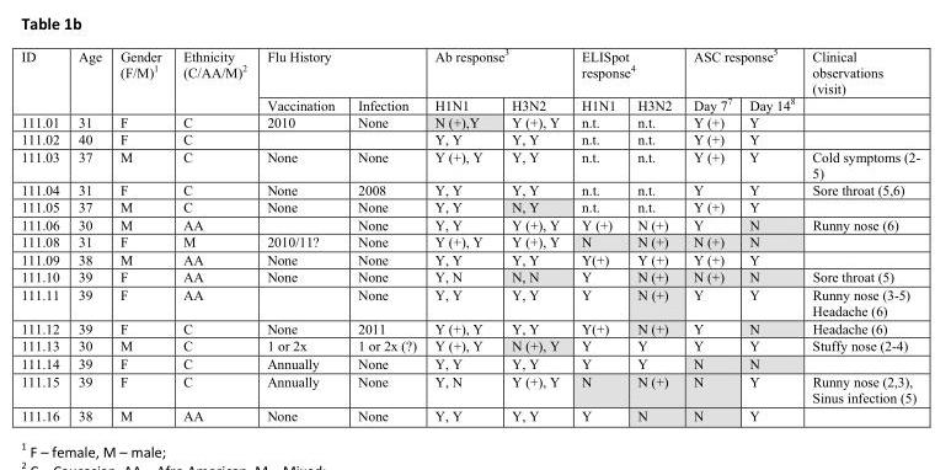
<table><thead><tr><td rowspan="2">ID</td><td rowspan="2">Age</td><td rowspan="2">Gender (F/M)<sup>1</sup></td><td rowspan="2">Ethnicity (C/AA/M)<sup>2</sup></td><td colspan="2">Flu History</td><td colspan="2">Ab response<sup>3</sup></td><td colspan="2">ELISpot response<sup>4</sup></td><td colspan="2">ASC response<sup>5</sup></td><td rowspan="2">Clinical observations (visit)</td></tr><tr><td>Vaccination</td><td>Infection</td><td>H1N1</td><td>H3N2</td><td>H1N1</td><td>H3N2</td><td>Day 7<sup>7</sup></td><td>Day 14<sup>8</sup></td></tr></thead><tbody><tr><td>111.01</td><td>31</td><td>F</td><td>C</td><td>2010</td><td>None</td><td>N (+),Y</td><td>Y (+), Y</td><td>n.t.</td><td>n.t.</td><td>Y (+)</td><td>Y</td><td></td></tr><tr><td>111.02</td><td>40</td><td>F</td><td>C</td><td></td><td></td><td>Y, Y</td><td>Y, Y</td><td>n.t.</td><td>n.t.</td><td>Y (+)</td><td>Y</td><td></td></tr><tr><td>111.03</td><td>37</td><td>M</td><td>C</td><td>None</td><td>None</td><td>Y (+), Y</td><td>Y, Y</td><td>n.t.</td><td>n.t.</td><td>Y (+)</td><td>Y</td><td>Cold symptoms (2- 5)</td></tr><tr><td>111.04</td><td>31</td><td>F</td><td>C</td><td>None</td><td>2008</td><td>Y, Y</td><td>Y, Y</td><td>n.t.</td><td>n.t.</td><td>Y</td><td>Y</td><td>Sore throat (5,6)</td></tr><tr><td>111.05</td><td>37</td><td>M</td><td>C</td><td>None</td><td>None</td><td>Y, Y</td><td>N, Y</td><td>n.t.</td><td>n.t.</td><td>Y (+)</td><td>Y</td><td></td></tr><tr><td>111.06</td><td>30</td><td>M</td><td>AA</td><td></td><td>None</td><td>Y, Y</td><td>Y (+), Y</td><td>Y (+)</td><td>N (+)</td><td>Y</td><td>N</td><td>Runny nose (6)</td></tr><tr><td>111.08</td><td>31</td><td>F</td><td>M</td><td>2010/11?</td><td>None</td><td>Y (+), Y</td><td>Y (+), Y</td><td>N</td><td>N (+)</td><td>N (+)</td><td>N</td><td></td></tr><tr><td>111.09</td><td>38</td><td>M</td><td>AA</td><td>None</td><td>None</td><td>Y, Y</td><td>Y, Y</td><td>Y(+)</td><td>Y (+)</td><td>Y (+)</td><td>Y</td><td></td></tr><tr><td>111.10</td><td>39</td><td>F</td><td>AA</td><td>None</td><td>None</td><td>Y, N</td><td>N, N</td><td>Y</td><td>N (+)</td><td>N (+)</td><td>N</td><td>Sore throat (5)</td></tr><tr><td>111.11</td><td>39</td><td>F</td><td>AA</td><td></td><td>None</td><td>Y, Y</td><td>Y, Y</td><td>Y</td><td>N (+)</td><td>Y</td><td>Y</td><td>Runny nose (3-5) Headache (6)</td></tr><tr><td>111.12</td><td>39</td><td>F</td><td>C</td><td>None</td><td>2011</td><td>Y (+), Y</td><td>Y, Y</td><td>Y(+)</td><td>N (+)</td><td>Y</td><td>N</td><td>Headache (6)</td></tr><tr><td>111.13</td><td>30</td><td>M</td><td>C</td><td>1 or 2x</td><td>1 or 2x (?)</td><td>Y (+), Y</td><td>N (+), Y</td><td>Y</td><td>Y</td><td>Y</td><td>Y</td><td>Stuffy nose (2-4)</td></tr><tr><td>111.14</td><td>39</td><td>F</td><td>C</td><td>Annually</td><td>None</td><td>Y, Y</td><td>Y, Y</td><td>Y</td><td>Y</td><td>N</td><td>N</td><td></td></tr><tr><td>111.15</td><td>39</td><td>F</td><td>C</td><td>Annually</td><td>None</td><td>Y, N</td><td>Y (+), Y</td><td>N</td><td>N (+)</td><td>N</td><td>Y</td><td>Runny nose (2,3), Sinus infection (5)</td></tr><tr><td>111.16</td><td>38</td><td>M</td><td>AA</td><td>None</td><td>None</td><td>Y, Y</td><td>Y, Y</td><td>Y</td><td>N</td><td>N</td><td>Y</td><td></td></tr></tbody></table>